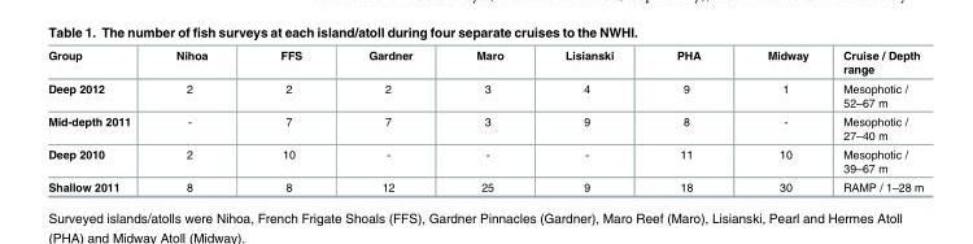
<table><thead><tr><td>Group</td><td>Nihoa</td><td>FFS</td><td>Gardner</td><td>Maro</td><td>Lisianski</td><td>PHA</td><td>Midway</td><td>Cruise / Depth range</td></tr></thead><tbody><tr><td>Deep 2012</td><td>2</td><td>2</td><td>2</td><td>3</td><td>4</td><td>9</td><td>1</td><td>Mesophotic / 52–67 m</td></tr><tr><td>Mid-depth 2011</td><td>-</td><td>7</td><td>7</td><td>3</td><td>9</td><td>8</td><td>-</td><td>Mesophotic / 27–40 m</td></tr><tr><td>Deep 2010</td><td>2</td><td>10</td><td>-</td><td>-</td><td>-</td><td>11</td><td>10</td><td>Mesophotic / 39–67 m</td></tr><tr><td>Shallow 2011</td><td>8</td><td>8</td><td>12</td><td>25</td><td>9</td><td>18</td><td>30</td><td>RAMP / 1–28 m</td></tr></tbody></table>